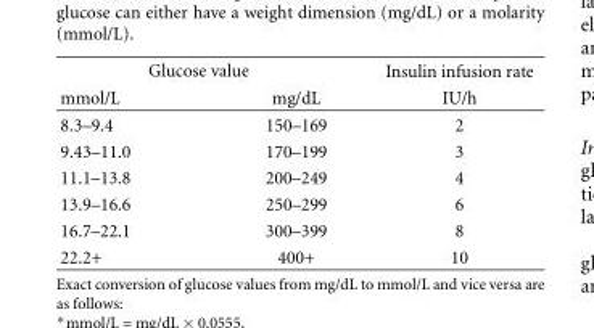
<table><thead><tr><td colspan="2">Glucose value</td><td rowspan="2">Insulin infusion rate IU/h</td></tr><tr><td>mmol/L</td><td>mg/dL</td></tr></thead><tbody><tr><td>8.3–9.4</td><td>150–169</td><td>2</td></tr><tr><td>9.43–11.0</td><td>170–199</td><td>3</td></tr><tr><td>11.1–13.8</td><td>200–249</td><td>4</td></tr><tr><td>13.9–16.6</td><td>250–299</td><td>6</td></tr><tr><td>16.7–22.1</td><td>300–399</td><td>8</td></tr><tr><td>22.2+</td><td>400+</td><td>10</td></tr></tbody></table>